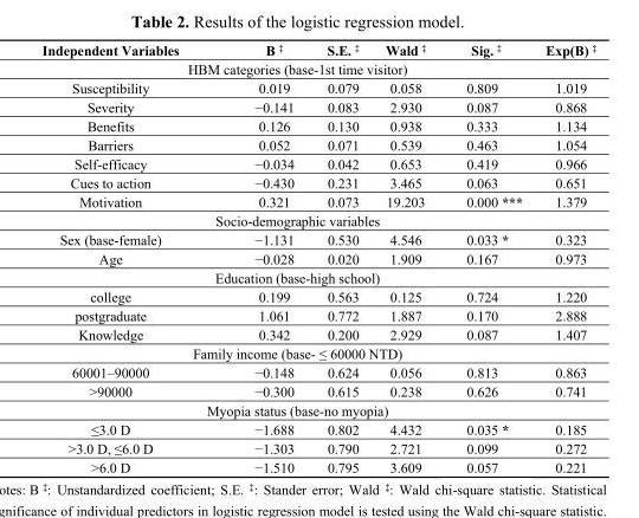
<table><thead><tr><td>Independent Variables</td><td>B <sup>‡</sup></td><td>S.E. <sup>‡</sup></td><td>Wald <sup>‡</sup></td><td>Sig. <sup>‡</sup></td><td>Exp(B) <sup>‡</sup></td></tr></thead><tbody><tr><td colspan="6">HBM categories (base-1st time visitor)</td></tr><tr><td>Susceptibility</td><td>0.019</td><td>0.079</td><td>0.058</td><td>0.809</td><td>1.019</td></tr><tr><td>Severity</td><td>−0.141</td><td>0.083</td><td>2.930</td><td>0.087</td><td>0.868</td></tr><tr><td>Benefits</td><td>0.126</td><td>0.130</td><td>0.938</td><td>0.333</td><td>1.134</td></tr><tr><td>Barriers</td><td>0.052</td><td>0.071</td><td>0.539</td><td>0.463</td><td>1.054</td></tr><tr><td>Self-efficacy</td><td>−0.034</td><td>0.042</td><td>0.653</td><td>0.419</td><td>0.966</td></tr><tr><td>Cues to action</td><td>−0.430</td><td>0.231</td><td>3.465</td><td>0.063</td><td>0.651</td></tr><tr><td>Motivation</td><td>0.321</td><td>0.073</td><td>19.203</td><td>0.000 ***</td><td>1.379</td></tr><tr><td colspan="6">Socio-demographic variables</td></tr><tr><td>Sex (base-female)</td><td>−1.131</td><td>0.530</td><td>4.546</td><td>0.033 *</td><td>0.323</td></tr><tr><td>Age</td><td>−0.028</td><td>0.020</td><td>1.909</td><td>0.167</td><td>0.973</td></tr><tr><td colspan="6">Education (base-high school)</td></tr><tr><td>college</td><td>0.199</td><td>0.563</td><td>0.125</td><td>0.724</td><td>1.220</td></tr><tr><td>postgraduate</td><td>1.061</td><td>0.772</td><td>1.887</td><td>0.170</td><td>2.888</td></tr><tr><td>Knowledge</td><td>0.342</td><td>0.200</td><td>2.929</td><td>0.087</td><td>1.407</td></tr><tr><td colspan="6">Family income (base- ≤ 60000 NTD)</td></tr><tr><td>60001–90000</td><td>−0.148</td><td>0.624</td><td>0.056</td><td>0.813</td><td>0.863</td></tr><tr><td>&gt;90000</td><td>−0.300</td><td>0.615</td><td>0.238</td><td>0.626</td><td>0.741</td></tr><tr><td colspan="6">Myopia status (base-no myopia)</td></tr><tr><td>≤3.0 D</td><td>−1.688</td><td>0.802</td><td>4.432</td><td>0.035 *</td><td>0.185</td></tr><tr><td>&gt;3.0 D, ≤6.0 D</td><td>−1.303</td><td>0.790</td><td>2.721</td><td>0.099</td><td>0.272</td></tr><tr><td>&gt;6.0 D</td><td>−1.510</td><td>0.795</td><td>3.609</td><td>0.057</td><td>0.221</td></tr></tbody></table>